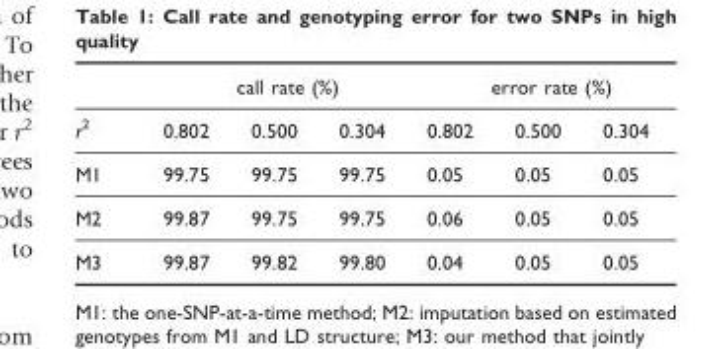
<table><thead><tr><td rowspan="2">r<sup>2</sup></td><td colspan="3">call rate (%)</td><td colspan="3">error rate (%)</td></tr><tr><td>0.802</td><td>0.500</td><td>0.304</td><td>0.802</td><td>0.500</td><td>0.304</td></tr></thead><tbody><tr><td>M1</td><td>99.75</td><td>99.75</td><td>99.75</td><td>0.05</td><td>0.05</td><td>0.05</td></tr><tr><td>M2</td><td>99.87</td><td>99.75</td><td>99.75</td><td>0.06</td><td>0.05</td><td>0.05</td></tr><tr><td>M3</td><td>99.87</td><td>99.82</td><td>99.80</td><td>0.04</td><td>0.05</td><td>0.05</td></tr></tbody></table>